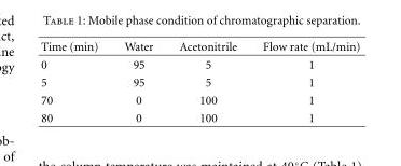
<table><thead><tr><td>Time (min)</td><td>Water</td><td>Acetonitrile</td><td>Flow rate (mL/min)</td></tr></thead><tbody><tr><td>0</td><td>95</td><td>5</td><td>1</td></tr><tr><td>5</td><td>95</td><td>5</td><td>1</td></tr><tr><td>70</td><td>0</td><td>100</td><td>1</td></tr><tr><td>80</td><td>0</td><td>100</td><td>1</td></tr></tbody></table>